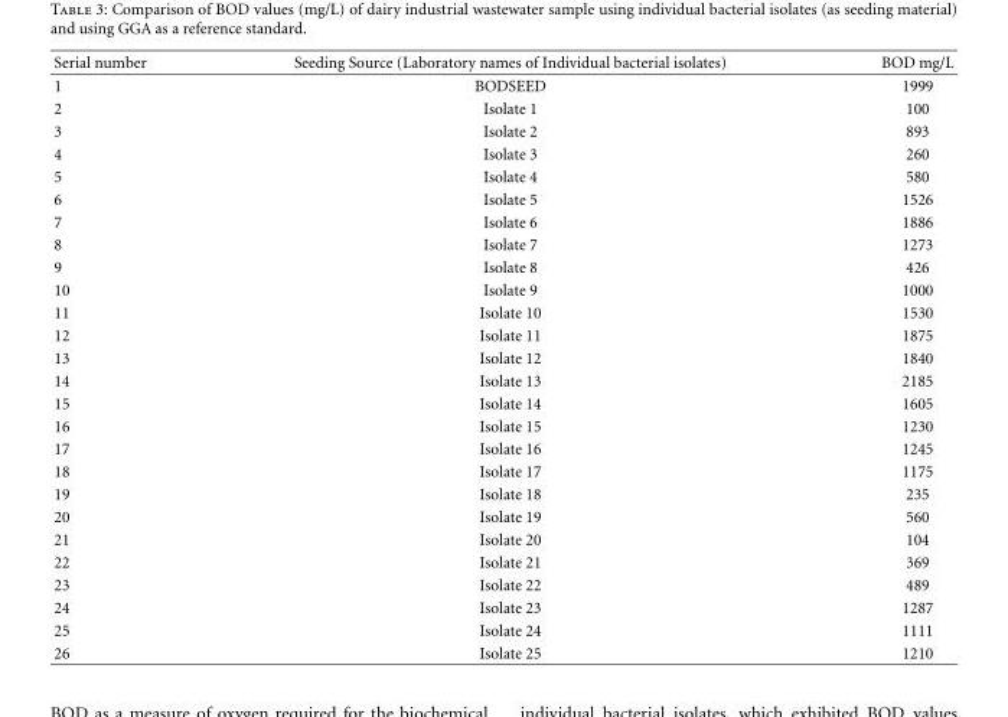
<table><thead><tr><td>Serial number</td><td>Seeding Source (Laboratory names of Individual bacterial isolates)</td><td>BOD mg/L</td></tr></thead><tbody><tr><td>1</td><td>BODSEED</td><td>1999</td></tr><tr><td>2</td><td>Isolate 1</td><td>100</td></tr><tr><td>3</td><td>Isolate 2</td><td>893</td></tr><tr><td>4</td><td>Isolate 3</td><td>260</td></tr><tr><td>5</td><td>Isolate 4</td><td>580</td></tr><tr><td>6</td><td>Isolate 5</td><td>1526</td></tr><tr><td>7</td><td>Isolate 6</td><td>1886</td></tr><tr><td>8</td><td>Isolate 7</td><td>1273</td></tr><tr><td>9</td><td>Isolate 8</td><td>426</td></tr><tr><td>10</td><td>Isolate 9</td><td>1000</td></tr><tr><td>11</td><td>Isolate 10</td><td>1530</td></tr><tr><td>12</td><td>Isolate 11</td><td>1875</td></tr><tr><td>13</td><td>Isolate 12</td><td>1840</td></tr><tr><td>14</td><td>Isolate 13</td><td>2185</td></tr><tr><td>15</td><td>Isolate 14</td><td>1605</td></tr><tr><td>16</td><td>Isolate 15</td><td>1230</td></tr><tr><td>17</td><td>Isolate 16</td><td>1245</td></tr><tr><td>18</td><td>Isolate 17</td><td>1175</td></tr><tr><td>19</td><td>Isolate 18</td><td>235</td></tr><tr><td>20</td><td>Isolate 19</td><td>560</td></tr><tr><td>21</td><td>Isolate 20</td><td>104</td></tr><tr><td>22</td><td>Isolate 21</td><td>369</td></tr><tr><td>23</td><td>Isolate 22</td><td>489</td></tr><tr><td>24</td><td>Isolate 23</td><td>1287</td></tr><tr><td>25</td><td>Isolate 24</td><td>1111</td></tr><tr><td>26</td><td>Isolate 25</td><td>1210</td></tr></tbody></table>